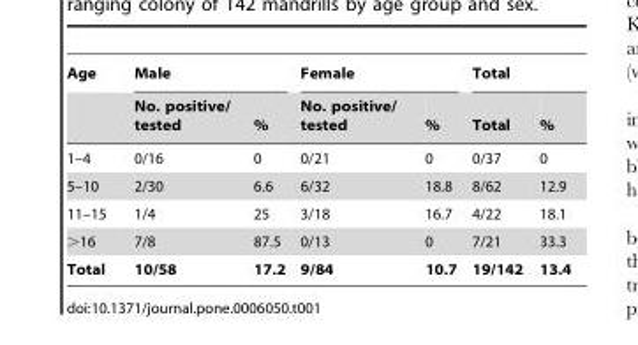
<table><thead><tr><td rowspan="2">Age</td><td colspan="2">Male</td><td colspan="2">Female</td><td colspan="2">Total</td></tr><tr><td>No. positive/ tested</td><td>%</td><td>No. positive/ tested</td><td>%</td><td>Total</td><td>%</td></tr></thead><tbody><tr><td>1–4</td><td>0/16</td><td>0</td><td>0/21</td><td>0</td><td>0/37</td><td>0</td></tr><tr><td>5–10</td><td>2/30</td><td>6.6</td><td>6/32</td><td>18.8</td><td>8/62</td><td>12.9</td></tr><tr><td>11–15</td><td>1/4</td><td>25</td><td>3/18</td><td>16.7</td><td>4/22</td><td>18.1</td></tr><tr><td>&gt;16</td><td>7/8</td><td>87.5</td><td>0/13</td><td>0</td><td>7/21</td><td>33.3</td></tr><tr><td>Total</td><td>10/58</td><td>17.2</td><td>9/84</td><td>10.7</td><td>19/142</td><td>13.4</td></tr></tbody></table>